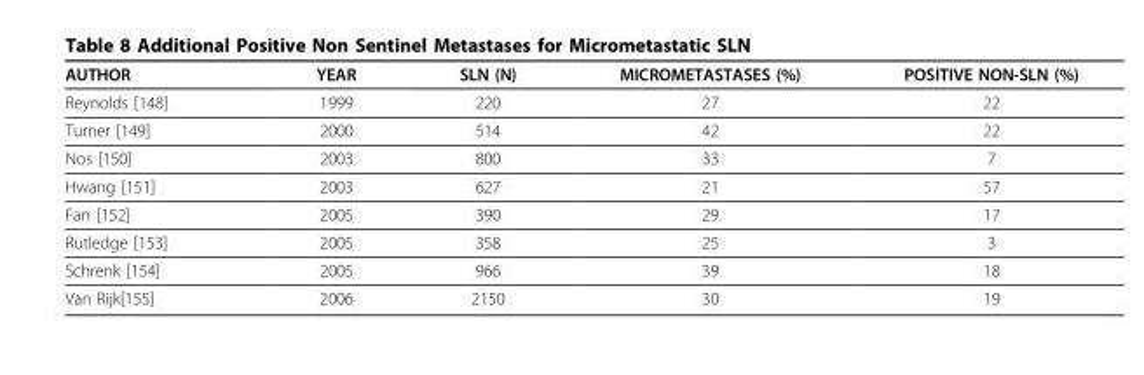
<table><thead><tr><td>AUTHOR</td><td>YEAR</td><td>SLN (N)</td><td>MICROMETASTASES (%)</td><td>POSITIVE NON-SLN (%)</td></tr></thead><tbody><tr><td>Reynolds [148]</td><td>1999</td><td>220</td><td>27</td><td>22</td></tr><tr><td>Turner [149]</td><td>2000</td><td>514</td><td>42</td><td>22</td></tr><tr><td>Nos [150]</td><td>2003</td><td>800</td><td>33</td><td>7</td></tr><tr><td>Hwang [151]</td><td>2003</td><td>627</td><td>21</td><td>57</td></tr><tr><td>Fan [152]</td><td>2005</td><td>390</td><td>29</td><td>17</td></tr><tr><td>Rutledge [153]</td><td>2005</td><td>358</td><td>25</td><td>3</td></tr><tr><td>Schrenk [154]</td><td>2005</td><td>966</td><td>39</td><td>18</td></tr><tr><td>Van Rijk[155]</td><td>2006</td><td>2150</td><td>30</td><td>19</td></tr></tbody></table>